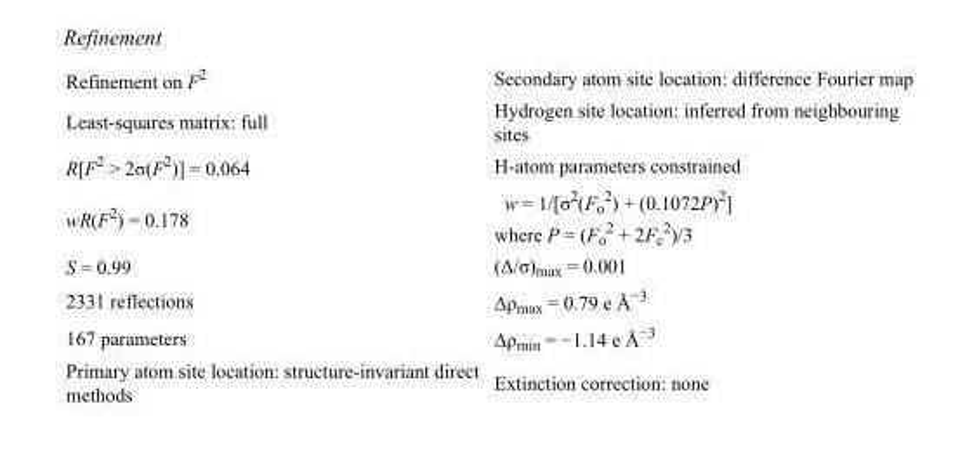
<table><tbody><tr><td>Refinement on F<sup>2</sup></td><td>Secondary atom site location: difference Fourier map</td></tr><tr><td>Least-squares matrix: full</td><td>Hydrogen site location: inferred from neighbouring sites</td></tr><tr><td>R[F<sup>2</sup> &gt; 2σ(F<sup>2</sup>)] = 0.064</td><td>H-atom parameters constrained</td></tr><tr><td>wR(F<sup>2</sup>) = 0.178</td><td>w = 1/[σ<sup>2</sup>(F<sub>o</sub> <sup>2</sup>) + (0.1072P)<sup>2</sup>] where P = (F<sub>o</sub> <sup>2</sup> + 2F<sub>c</sub> <sup>2</sup>)/3</td></tr><tr><td>S = 0.99</td><td>(Δ/σ)<sub>max</sub> = 0.001</td></tr><tr><td>2331 reflections</td><td>Δρ<sub>max</sub> = 0.79 e Å<sup>−3</sup></td></tr><tr><td>167 parameters</td><td>Δρ<sub>min</sub> = −1.14 e Å<sup>−3</sup></td></tr><tr><td>Primary atom site location: structure-invariant direct methods</td><td>Extinction correction: none</td></tr></tbody></table>